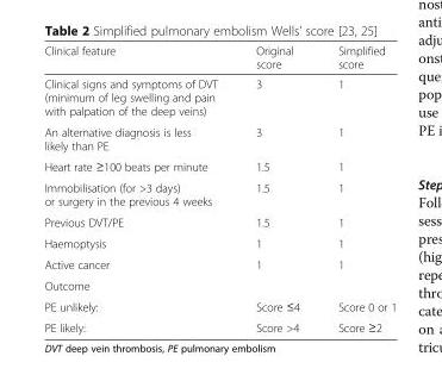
<table><thead><tr><td>Clinical feature</td><td>Original score</td><td>Simplified score</td></tr></thead><tbody><tr><td>Clinical signs and symptoms of DVT (minimum of leg swelling and pain with palpation of the deep veins)</td><td>3</td><td>1</td></tr><tr><td>An alternative diagnosis is less likely than PE</td><td>3</td><td>1</td></tr><tr><td>Heart rate ≥100 beats per minute</td><td>1.5</td><td>1</td></tr><tr><td>Immobilisation (for &gt;3 days) or surgery in the previous 4 weeks</td><td>1.5</td><td>1</td></tr><tr><td>Previous DVT/PE</td><td>1.5</td><td>1</td></tr><tr><td>Haemoptysis</td><td>1</td><td>1</td></tr><tr><td>Active cancer</td><td>1</td><td>1</td></tr><tr><td colspan="3">Outcome</td></tr><tr><td>PE unlikely:</td><td>Score ≤4</td><td>Score 0 or 1</td></tr><tr><td>PE likely:</td><td>Score &gt;4</td><td>Score ≥2</td></tr></tbody></table>